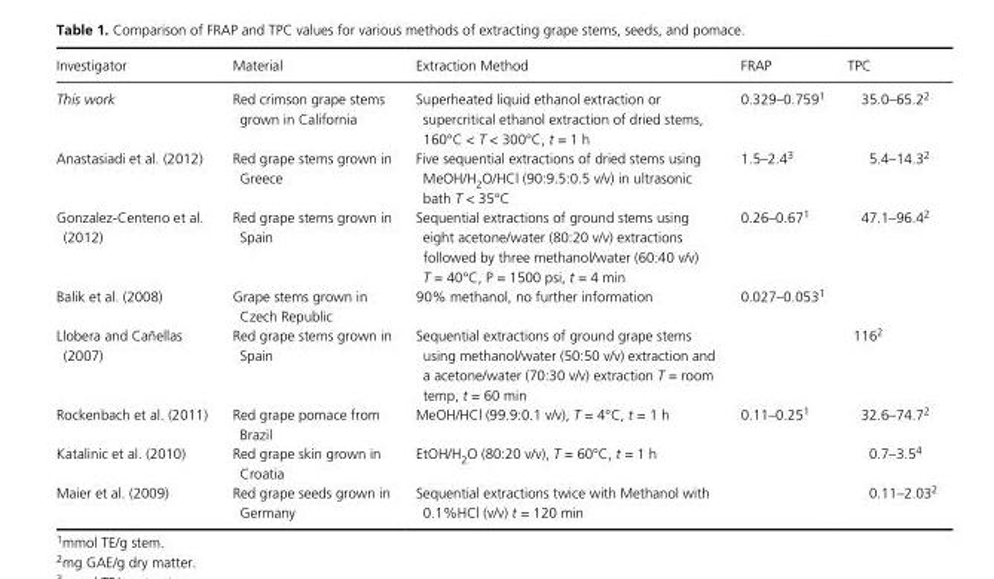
<table><thead><tr><td>Investigator</td><td>Material</td><td>Extraction Method</td><td>FRAP</td><td>TPC</td></tr></thead><tbody><tr><td>This work</td><td>Red crimson grape stems grown in California</td><td>Superheated liquid ethanol extraction or supercritical ethanol extraction of dried stems, 160°C &lt; T &lt; 300°C, t = 1 h</td><td>0.329–0.7591</td><td>35.0–65.22</td></tr><tr><td>Anastasiadi et al. (2012)</td><td>Red grape stems grown in Greece</td><td>Five sequential extractions of dried stems using MeOH/H<sub>2</sub>O/HCl (90:9.5:0.5 v/v) in ultrasonic bath T &lt; 35°C</td><td>1.5–2.43</td><td>5.4–14.32</td></tr><tr><td>Gonzalez- Centeno et al. (2012)</td><td>Red grape stems grown in Spain</td><td>Sequential extractions of ground stems using eight acetone/water (80:20 v/v) extractions followed by three methanol/water (60:40 v/v) T = 40°C, P = 1500 psi, t = 4 min</td><td>0.26–0.671</td><td>47.1–96.42</td></tr><tr><td>Balik et al. (2008)</td><td>Grape stems grown in Czech Republic</td><td>90% methanol, no further information</td><td>0.027–0.0531</td><td></td></tr><tr><td>Llobera and Cañellas (2007)</td><td>Red grape stems grown in Spain</td><td>Sequential extractions of ground grape stems using methanol/water (50:50 v/v) extraction and a acetone/water (70:30 v/v) extraction T = room temp, t = 60 min</td><td></td><td>1162</td></tr><tr><td>Rockenbach et al. (2011)</td><td>Red grape pomace from Brazil</td><td>MeOH/HCl (99.9:0.1 v/v), T = 4°C, t = 1 h</td><td>0.11–0.251</td><td>32.6–74.72</td></tr><tr><td>Katalinic et al. (2010)</td><td>Red grape skin grown in Croatia</td><td>EtOH/H<sub>2</sub>O (80:20 v/v), T = 60°C, t = 1 h</td><td></td><td>0.7–3.54</td></tr><tr><td>Maier et al. (2009)</td><td>Red grape seeds grown in Germany</td><td>Sequential extractions twice with Methanol with 0.1%HCl (v/v) t = 120 min</td><td></td><td>0.11–2.032</td></tr></tbody></table>